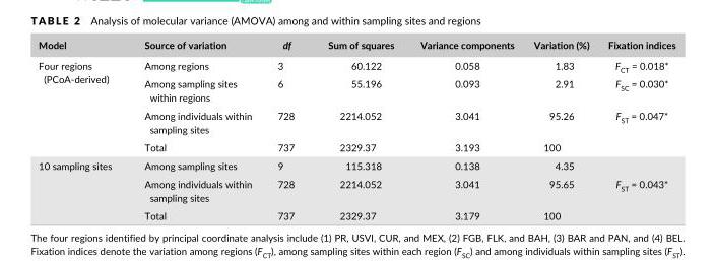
<table><thead><tr><td>Model</td><td>Source of variation</td><td>df</td><td>Sum of squares</td><td>Variance components</td><td>Variation (%)</td><td>Fixation indices</td></tr></thead><tbody><tr><td rowspan="4">Four regions (PCoA- derived)</td><td>Among regions</td><td>3</td><td>60.122</td><td>0.058</td><td>1.83</td><td>F<sub>CT</sub> = 0.018*</td></tr><tr><td>Among sampling sites within regions</td><td>6</td><td>55.196</td><td>0.093</td><td>2.91</td><td>F<sub>SC</sub> = 0.030*</td></tr><tr><td>Among individuals within sampling sites</td><td>728</td><td>2214.052</td><td>3.041</td><td>95.26</td><td>F<sub>ST</sub> = 0.047*</td></tr><tr><td>Total</td><td>737</td><td>2329.37</td><td>3.193</td><td>100</td><td></td></tr><tr><td rowspan="3">10 sampling sites</td><td>Among sampling sites</td><td>9</td><td>115.318</td><td>0.138</td><td>4.35</td><td></td></tr><tr><td>Among individuals within sampling sites</td><td>728</td><td>2214.052</td><td>3.041</td><td>95.65</td><td>F<sub>ST</sub> = 0.043*</td></tr><tr><td>Total</td><td>737</td><td>2329.37</td><td>3.179</td><td>100</td><td></td></tr></tbody></table>